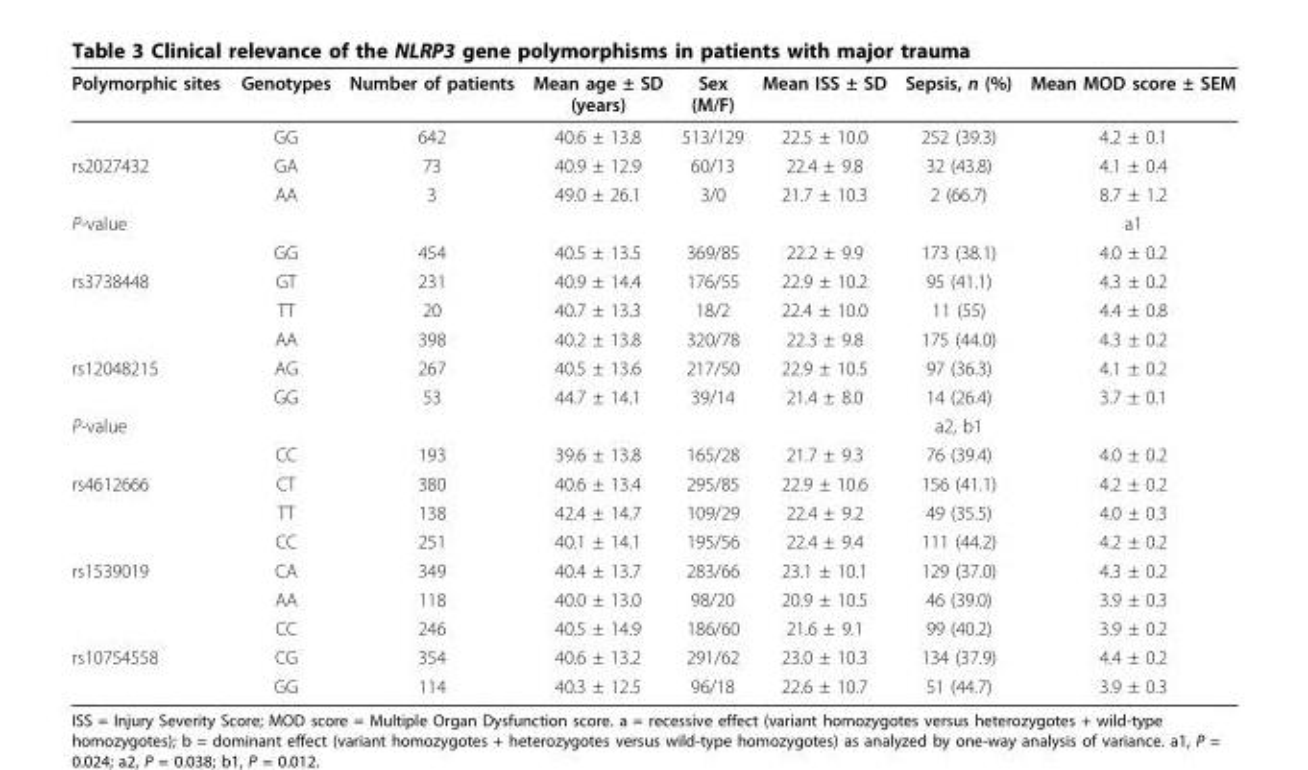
<table><thead><tr><td>Polymorphic sites</td><td>Genotypes</td><td>Number of patients</td><td>Mean age ± SD (years)</td><td>Sex (M/F)</td><td>Mean ISS ± SD</td><td>Sepsis, n (%)</td><td>Mean MOD score ± SEM</td></tr></thead><tbody><tr><td></td><td>GG</td><td>642</td><td>40.6 ± 13.8</td><td>513/129</td><td>22.5 ± 10.0</td><td>252 (39.3)</td><td>4.2 ± 0.1</td></tr><tr><td rowspan="2">rs2027432</td><td>GA</td><td>73</td><td>40.9 ± 12.9</td><td>60/13</td><td>22.4 ± 9.8</td><td>32 (43.8)</td><td>4.1 ± 0.4</td></tr><tr><td>AA</td><td>3</td><td>49.0 ± 26.1</td><td>3/0</td><td>21.7 ± 10.3</td><td>2 (66.7)</td><td>8.7 ± 1.2</td></tr><tr><td rowspan="2">P-value</td><td></td><td></td><td></td><td></td><td></td><td></td><td>a1</td></tr><tr><td>GG</td><td>454</td><td>40.5 ± 13.5</td><td>369/85</td><td>22.2 ± 9.9</td><td>173 (38.1)</td><td>4.0 ± 0.2</td></tr><tr><td rowspan="3">rs3738448</td><td>GT</td><td>231</td><td>40.9 ± 14.4</td><td>176/55</td><td>22.9 ± 10.2</td><td>95 (41.1)</td><td>4.3 ± 0.2</td></tr><tr><td>TT</td><td>20</td><td>40.7 ± 13.3</td><td>18/2</td><td>22.4 ± 10.0</td><td>11 (55)</td><td>4.4 ± 0.8</td></tr><tr><td>AA</td><td>398</td><td>40.2 ± 13.8</td><td>320/78</td><td>22.3 ± 9.8</td><td>175 (44.0)</td><td>4.3 ± 0.2</td></tr><tr><td rowspan="2">rs12048215</td><td>AG</td><td>267</td><td>40.5 ± 13.6</td><td>217/50</td><td>22.9 ± 10.5</td><td>97 (36.3)</td><td>4.1 ± 0.2</td></tr><tr><td>GG</td><td>53</td><td>44.7 ± 14.1</td><td>39/14</td><td>21.4 ± 8.0</td><td>14 (26.4)</td><td>3.7 ± 0.1</td></tr><tr><td rowspan="2">P-value</td><td></td><td></td><td></td><td></td><td></td><td>a2, b1</td><td></td></tr><tr><td>CC</td><td>193</td><td>39.6 ± 13.8</td><td>165/28</td><td>21.7 ± 9.3</td><td>76 (39.4)</td><td>4.0 ± 0.2</td></tr><tr><td rowspan="3">rs4612666</td><td>CT</td><td>380</td><td>40.6 ± 13.4</td><td>295/85</td><td>22.9 ± 10.6</td><td>156 (41.1)</td><td>4.2 ± 0.2</td></tr><tr><td>TT</td><td>138</td><td>42.4 ± 14.7</td><td>109/29</td><td>22.4 ± 9.2</td><td>49 (35.5)</td><td>4.0 ± 0.3</td></tr><tr><td>CC</td><td>251</td><td>40.1 ± 14.1</td><td>195/56</td><td>22.4 ± 9.4</td><td>111 (44.2)</td><td>4.2 ± 0.2</td></tr><tr><td rowspan="3">rs1539019</td><td>CA</td><td>349</td><td>40.4 ± 13.7</td><td>283/66</td><td>23.1 ± 10.1</td><td>129 (37.0)</td><td>4.3 ± 0.2</td></tr><tr><td>AA</td><td>118</td><td>40.0 ± 13.0</td><td>98/20</td><td>20.9 ± 10.5</td><td>46 (39.0)</td><td>3.9 ± 0.3</td></tr><tr><td>CC</td><td>246</td><td>40.5 ± 14.9</td><td>186/60</td><td>21.6 ± 9.1</td><td>99 (40.2)</td><td>3.9 ± 0.2</td></tr><tr><td rowspan="2">rs10754558</td><td>CG</td><td>354</td><td>40.6 ± 13.2</td><td>291/62</td><td>23.0 ± 10.3</td><td>134 (37.9)</td><td>4.4 ± 0.2</td></tr><tr><td>GG</td><td>114</td><td>40.3 ± 12.5</td><td>96/18</td><td>22.6 ± 10.7</td><td>51 (44.7)</td><td>3.9 ± 0.3</td></tr></tbody></table>